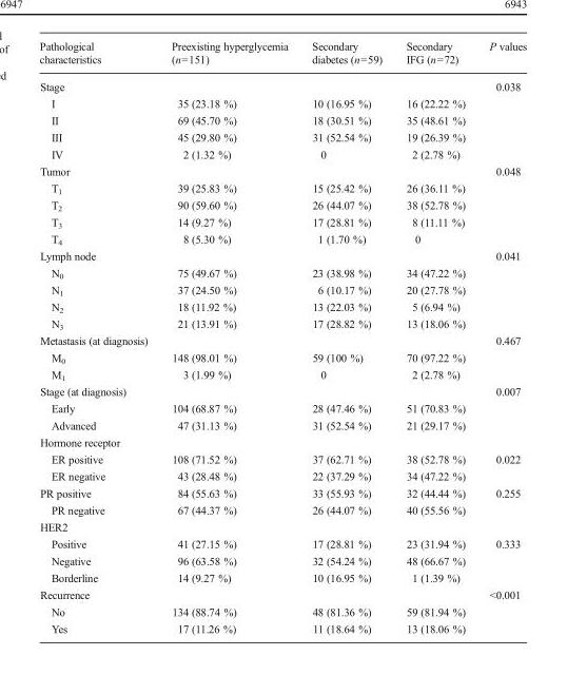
<table><thead><tr><td>Pathological characteristics</td><td>Preexisting hyperglycemia (n=151)</td><td>Secondary diabetes (n=59)</td><td>Secondary IFG (n=72)</td><td>P values</td></tr></thead><tbody><tr><td>Stage</td><td></td><td></td><td></td><td>0.038</td></tr><tr><td>I</td><td>35 (23.18 %)</td><td>10 (16.95 %)</td><td>16 (22.22 %)</td><td></td></tr><tr><td>II</td><td>69 (45.70 %)</td><td>18 (30.51 %)</td><td>35 (48.61 %)</td><td></td></tr><tr><td>III</td><td>45 (29.80 %)</td><td>31 (52.54 %)</td><td>19 (26.39 %)</td><td></td></tr><tr><td>IV</td><td>2 (1.32 %)</td><td>0</td><td>2 (2.78 %)</td><td></td></tr><tr><td>Tumor</td><td></td><td></td><td></td><td>0.048</td></tr><tr><td>T<sub>1</sub></td><td>39 (25.83 %)</td><td>15 (25.42 %)</td><td>26 (36.11 %)</td><td></td></tr><tr><td>T<sub>2</sub></td><td>90 (59.60 %)</td><td>26 (44.07 %)</td><td>38 (52.78 %)</td><td></td></tr><tr><td>T<sub>3</sub></td><td>14 (9.27 %)</td><td>17 (28.81 %)</td><td>8 (11.11 %)</td><td></td></tr><tr><td>T<sub>4</sub></td><td>8 (5.30 %)</td><td>1 (1.70 %)</td><td>0</td><td></td></tr><tr><td>Lymph node</td><td></td><td></td><td></td><td>0.041</td></tr><tr><td>N<sub>0</sub></td><td>75 (49.67 %)</td><td>23 (38.98 %)</td><td>34 (47.22 %)</td><td></td></tr><tr><td>N<sub>1</sub></td><td>37 (24.50 %)</td><td>6 (10.17 %)</td><td>20 (27.78 %)</td><td></td></tr><tr><td>N<sub>2</sub></td><td>18 (11.92 %)</td><td>13 (22.03 %)</td><td>5 (6.94 %)</td><td></td></tr><tr><td>N<sub>3</sub></td><td>21 (13.91 %)</td><td>17 (28.82 %)</td><td>13 (18.06 %)</td><td></td></tr><tr><td>Metastasis (at diagnosis)</td><td></td><td></td><td></td><td>0.467</td></tr><tr><td>M<sub>0</sub></td><td>148 (98.01 %)</td><td>59 (100 %)</td><td>70 (97.22 %)</td><td></td></tr><tr><td>M<sub>1</sub></td><td>3 (1.99 %)</td><td>0</td><td>2 (2.78 %)</td><td></td></tr><tr><td>Stage (at diagnosis)</td><td></td><td></td><td></td><td>0.007</td></tr><tr><td>Early</td><td>104 (68.87 %)</td><td>28 (47.46 %)</td><td>51 (70.83 %)</td><td></td></tr><tr><td>Advanced</td><td>47 (31.13 %)</td><td>31 (52.54 %)</td><td>21 (29.17 %)</td><td></td></tr><tr><td colspan="5">Hormone receptor</td></tr><tr><td>ER positive</td><td>108 (71.52 %)</td><td>37 (62.71 %)</td><td>38 (52.78 %)</td><td>0.022</td></tr><tr><td>ER negative</td><td>43 (28.48 %)</td><td>22 (37.29 %)</td><td>34 (47.22 %)</td><td></td></tr><tr><td>PR positive</td><td>84 (55.63 %)</td><td>33 (55.93 %)</td><td>32 (44.44 %)</td><td>0.255</td></tr><tr><td>PR negative</td><td>67 (44.37 %)</td><td>26 (44.07 %)</td><td>40 (55.56 %)</td><td></td></tr><tr><td colspan="5">HER2</td></tr><tr><td>Positive</td><td>41 (27.15 %)</td><td>17 (28.81 %)</td><td>23 (31.94 %)</td><td>0.333</td></tr><tr><td>Negative</td><td>96 (63.58 %)</td><td>32 (54.24 %)</td><td>48 (66.67 %)</td><td></td></tr><tr><td>Borderline</td><td>14 (9.27 %)</td><td>10 (16.95 %)</td><td>1 (1.39 %)</td><td></td></tr><tr><td>Recurrence</td><td></td><td></td><td></td><td>&lt;0.001</td></tr><tr><td>No</td><td>134 (88.74 %)</td><td>48 (81.36 %)</td><td>59 (81.94 %)</td><td></td></tr><tr><td>Yes</td><td>17 (11.26 %)</td><td>11 (18.64 %)</td><td>13 (18.06 %)</td><td></td></tr></tbody></table>